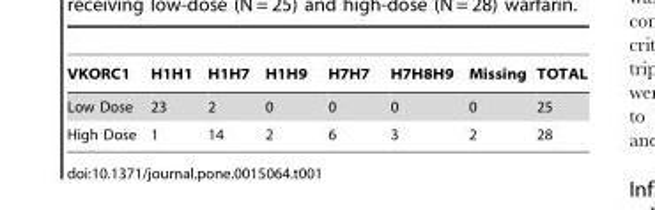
<table><thead><tr><td>VKORC1</td><td>H1H1</td><td>H1H7</td><td>H1H9</td><td>H7H7</td><td>H7H8H9</td><td>Missing</td><td>TOTAL</td></tr></thead><tbody><tr><td>Low Dose</td><td>23</td><td>2</td><td>0</td><td>0</td><td>0</td><td>0</td><td>25</td></tr><tr><td>High Dose</td><td>1</td><td>14</td><td>2</td><td>6</td><td>3</td><td>2</td><td>28</td></tr></tbody></table>